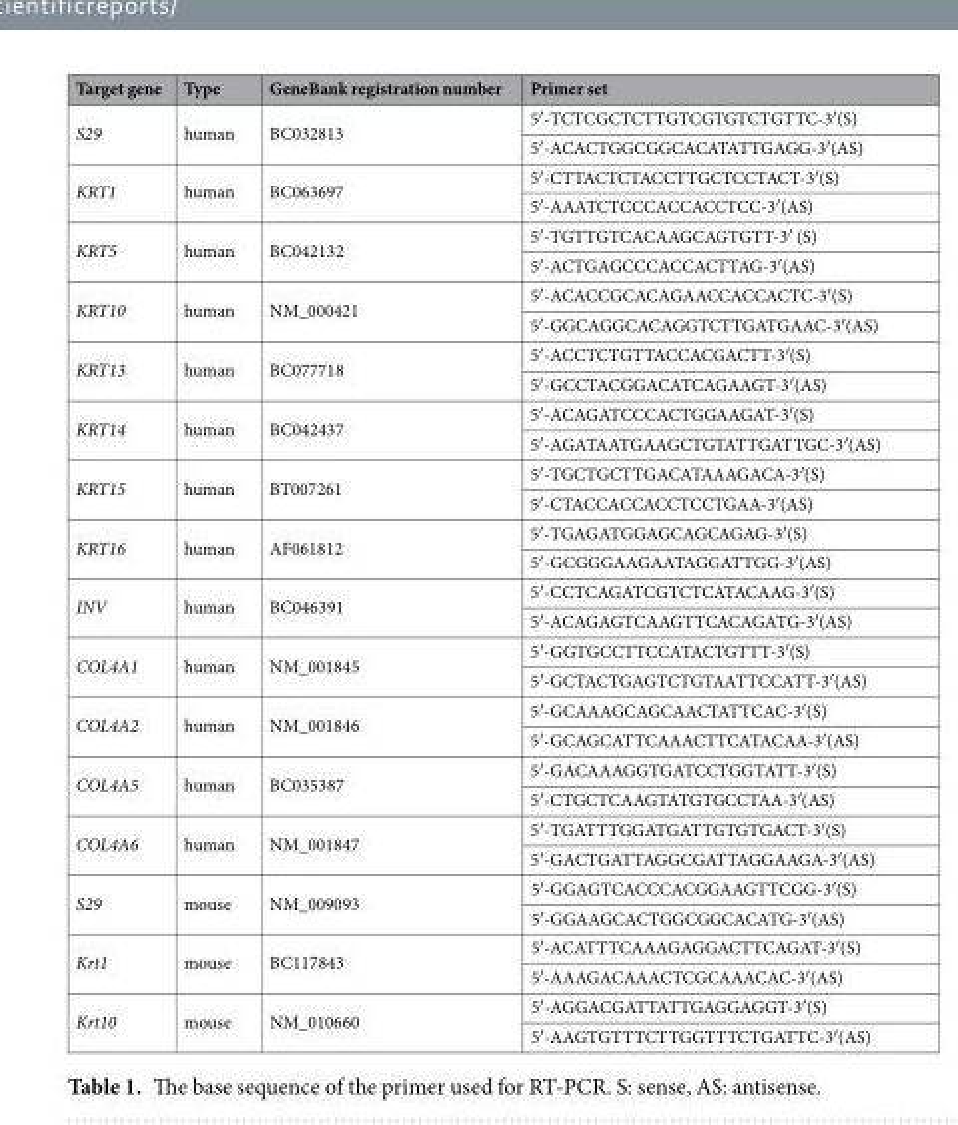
<table><thead><tr><td>Target gene</td><td>Type</td><td>GeneBank registration number</td><td>Primer set</td></tr></thead><tbody><tr><td rowspan="2">S29</td><td rowspan="2">human</td><td rowspan="2">BC032813</td><td>5′-TCTCGCTCTTGTCGTGTCTGTTC-3′(S)</td></tr><tr><td>5′-ACACTGGCGGCACATATTGAGG-3′(AS)</td></tr><tr><td rowspan="2">KRT1</td><td rowspan="2">human</td><td rowspan="2">BC063697</td><td>5′-CTTACTCTACCTTGCTCCTACT-3′(S)</td></tr><tr><td>5′-AAATCTCCCACCACCTCC-3′(AS)</td></tr><tr><td rowspan="2">KRT5</td><td rowspan="2">human</td><td rowspan="2">BC042132</td><td>5′-TGTTGTCACAAGCAGTGTT-3′ (S)</td></tr><tr><td>5′-ACTGAGCCCACCACTTAG-3′(AS)</td></tr><tr><td rowspan="2">KRT10</td><td rowspan="2">human</td><td rowspan="2">NM_000421</td><td>5′-ACACCGCACAGAACCACCACTC-3′(S)</td></tr><tr><td>5′-GGCAGGCACAGGTCTTGATGAAC-3′(AS)</td></tr><tr><td rowspan="2">KRT13</td><td rowspan="2">human</td><td rowspan="2">BC077718</td><td>5′-ACCTCTGTTACCACGACTT-3′(S)</td></tr><tr><td>5′-GCCTACGGACATCAGAAGT-3′(AS)</td></tr><tr><td rowspan="2">KRT14</td><td rowspan="2">human</td><td rowspan="2">BC042437</td><td>5′-ACAGATCCCACTGGAAGAT-3′(S)</td></tr><tr><td>5′-AGATAATGAAGCTGTATTGATTGC-3′(AS)</td></tr><tr><td rowspan="2">KRT15</td><td rowspan="2">human</td><td rowspan="2">BT007261</td><td>5′-TGCTGCTTGACATAAAGACA-3′(S)</td></tr><tr><td>5′-CTACCACCACCTCCTGAA-3′(AS)</td></tr><tr><td rowspan="2">KRT16</td><td rowspan="2">human</td><td rowspan="2">AF061812</td><td>5′-TGAGATGGAGCAGCAGAG-3′(S)</td></tr><tr><td>5′-GCGGGAAGAATAGGATTGG-3′(AS)</td></tr><tr><td rowspan="2">INV</td><td rowspan="2">human</td><td rowspan="2">BC046391</td><td>5′-CCTCAGATCGTCTCATACAAG-3′(S)</td></tr><tr><td>5′-ACAGAGTCAAGTTCACAGATG-3′(AS)</td></tr><tr><td rowspan="2">COL4A1</td><td rowspan="2">human</td><td rowspan="2">NM_001845</td><td>5′-GGTGCCTTCCATACTGTTT-3′(S)</td></tr><tr><td>5′-GCTACTGAGTCTGTAATTCCATT-3′(AS)</td></tr><tr><td rowspan="2">COL4A2</td><td rowspan="2">human</td><td rowspan="2">NM_001846</td><td>5′-GCAAAGCAGCAACTATTCAC-3′(S)</td></tr><tr><td>5′-GCAGCATTCAAACTTCATACAA-3′(AS)</td></tr><tr><td rowspan="2">COL4A5</td><td rowspan="2">human</td><td rowspan="2">BC035387</td><td>5′-GACAAAGGTGATCCTGGTATT-3′(S)</td></tr><tr><td>5′-CTGCTCAAGTATGTGCCTAA-3′(AS)</td></tr><tr><td rowspan="2">COL4A6</td><td rowspan="2">human</td><td rowspan="2">NM_001847</td><td>5′-TGATTTGGATGATTGTGTGACT-3′(S)</td></tr><tr><td>5′-GACTGATTAGGCGATTAGGAAGA-3′(AS)</td></tr><tr><td rowspan="2">S29</td><td rowspan="2">mouse</td><td rowspan="2">NM_009093</td><td>5′-GGAGTCACCCACGGAAGTTCGG-3′(S)</td></tr><tr><td>5′-GGAAGCACTGGCGGCACATG-3′(AS)</td></tr><tr><td rowspan="2">Krt1</td><td rowspan="2">mouse</td><td rowspan="2">BC117843</td><td>5′-ACATTTCAAAGAGGACTTCAGAT-3′(S)</td></tr><tr><td>5′-AAAGACAAACTCGCAAACAC-3′(AS)</td></tr><tr><td rowspan="2">Krt10</td><td rowspan="2">mouse</td><td rowspan="2">NM_010660</td><td>5′-AGGACGATTATTGAGGAGGT-3′(S)</td></tr><tr><td>5′-AAGTGTTTCTTGGTTTCTGATTC-3′(AS)</td></tr></tbody></table>